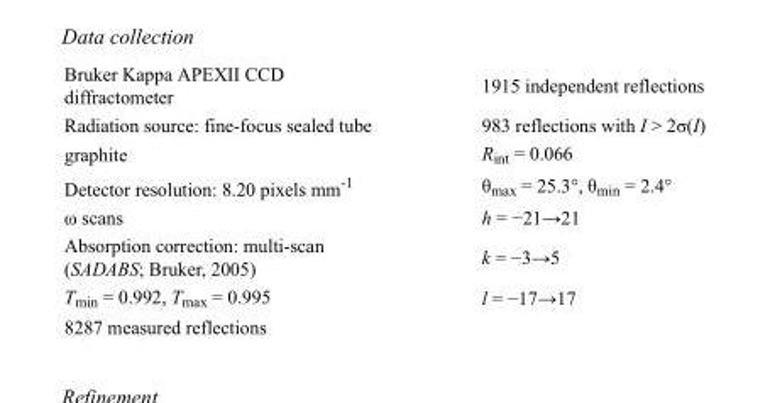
<table><tbody><tr><td>Bruker Kappa APEXII CCD diffractometer</td><td>1915 independent reflections</td></tr><tr><td>Radiation source: fine-focus sealed tube</td><td>983 reflections with I &gt; 2σ(I)</td></tr><tr><td>graphite</td><td>R<sub>int</sub> = 0.066</td></tr><tr><td>Detector resolution: 8.20 pixels mm<sup>-1</sup></td><td>θ<sub>max</sub> = 25.3°, θ<sub>min</sub> = 2.4°</td></tr><tr><td>ω scans</td><td>h = −21→21</td></tr><tr><td>Absorption correction: multi-scan (SADABS; Bruker, 2005)</td><td>k = −3→5</td></tr><tr><td>T<sub>min</sub> = 0.992, T<sub>max</sub> = 0.995</td><td>l = −17→17</td></tr><tr><td>8287 measured reflections</td><td></td></tr></tbody></table>